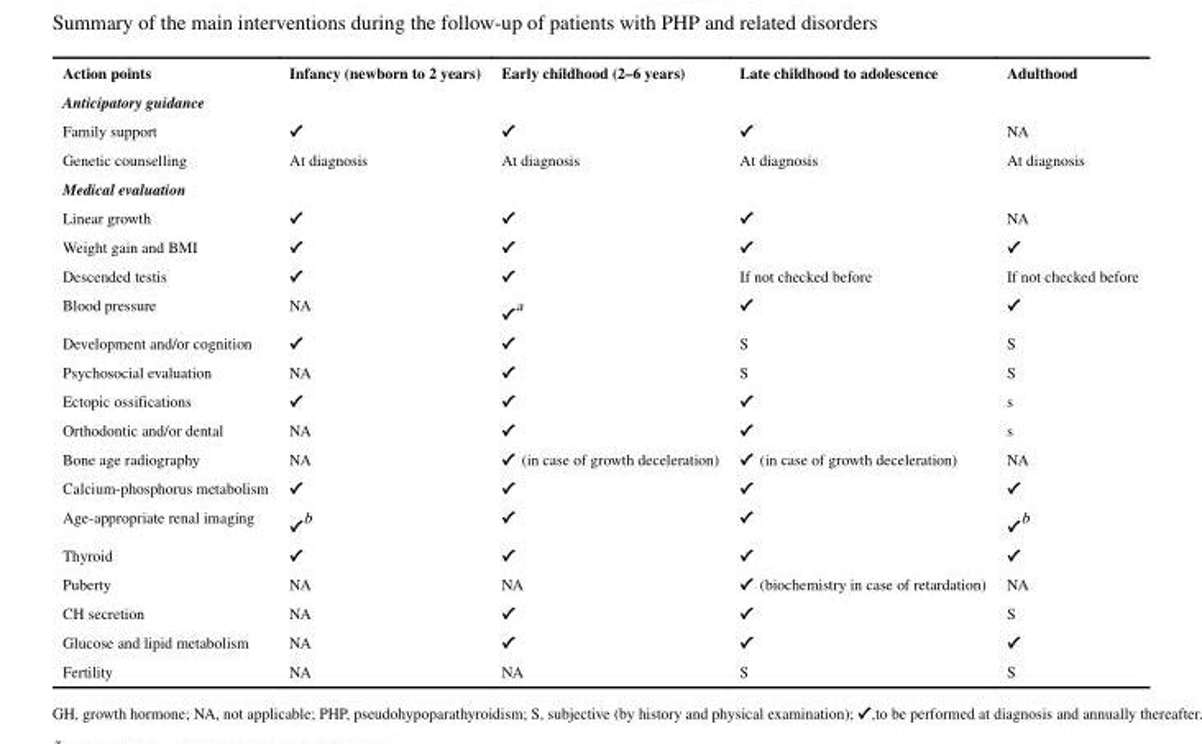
<table><thead><tr><td>Action points</td><td>Infancy (newborn to 2 years)</td><td>Early childhood (2–6 years)</td><td>Late childhood to adolescence</td><td>Adulthood</td></tr></thead><tbody><tr><td colspan="5">Anticipatory guidance</td></tr><tr><td>Family support</td><td>✔</td><td>✔</td><td>✔</td><td>NA</td></tr><tr><td>Genetic counselling</td><td>At diagnosis</td><td>At diagnosis</td><td>At diagnosis</td><td>At diagnosis</td></tr><tr><td colspan="5">Medical evaluation</td></tr><tr><td>Linear growth</td><td>✔</td><td>✔</td><td>✔</td><td>NA</td></tr><tr><td>Weight gain and BMI</td><td>✔</td><td>✔</td><td>✔</td><td>✔</td></tr><tr><td>Descended testis</td><td>✔</td><td>✔</td><td>If not checked before</td><td>If not checked before</td></tr><tr><td>Blood pressure</td><td>NA</td><td>✔a</td><td>✔</td><td>✔</td></tr><tr><td>Development and/or cognition</td><td>✔</td><td>✔</td><td>S</td><td>S</td></tr><tr><td>Psychosocial evaluation</td><td>NA</td><td>✔</td><td>S</td><td>S</td></tr><tr><td>Ectopic ossifications</td><td>✔</td><td>✔</td><td>✔</td><td>s</td></tr><tr><td>Orthodontic and/or dental</td><td>NA</td><td>✔</td><td>✔</td><td>s</td></tr><tr><td>Bone age radiography</td><td>NA</td><td>✔ (in case of growth deceleration)</td><td>✔ (in case of growth deceleration)</td><td>NA</td></tr><tr><td>Calcium-phosphorus metabolism</td><td>✔</td><td>✔</td><td>✔</td><td>✔</td></tr><tr><td>Age-appropriate renal imaging</td><td>✔b</td><td>✔</td><td>✔</td><td>✔b</td></tr><tr><td>Thyroid</td><td>✔</td><td>✔</td><td>✔</td><td>✔</td></tr><tr><td>Puberty</td><td>NA</td><td>NA</td><td>✔ (biochemistry in case of retardation)</td><td>NA</td></tr><tr><td>CH secretion</td><td>NA</td><td>✔</td><td>✔</td><td>S</td></tr><tr><td>Glucose and lipid metabolism</td><td>NA</td><td>✔</td><td>✔</td><td>✔</td></tr><tr><td>Fertility</td><td>NA</td><td>NA</td><td>S</td><td>S</td></tr></tbody></table>